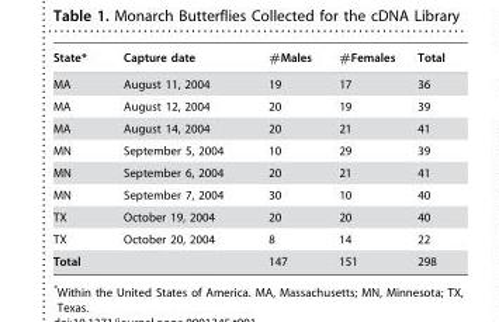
<table><thead><tr><td>State*</td><td>Capture date</td><td>#Males</td><td>#Females</td><td>Total</td></tr></thead><tbody><tr><td>MA</td><td>August 11, 2004</td><td>19</td><td>17</td><td>36</td></tr><tr><td>MA</td><td>August 12, 2004</td><td>20</td><td>19</td><td>39</td></tr><tr><td>MA</td><td>August 14, 2004</td><td>20</td><td>21</td><td>41</td></tr><tr><td>MN</td><td>September 5, 2004</td><td>10</td><td>29</td><td>39</td></tr><tr><td>MN</td><td>September 6, 2004</td><td>20</td><td>21</td><td>41</td></tr><tr><td>MN</td><td>September 7, 2004</td><td>30</td><td>10</td><td>40</td></tr><tr><td>TX</td><td>October 19, 2004</td><td>20</td><td>20</td><td>40</td></tr><tr><td>TX</td><td>October 20, 2004</td><td>8</td><td>14</td><td>22</td></tr><tr><td>Total</td><td></td><td>147</td><td>151</td><td>298</td></tr></tbody></table>